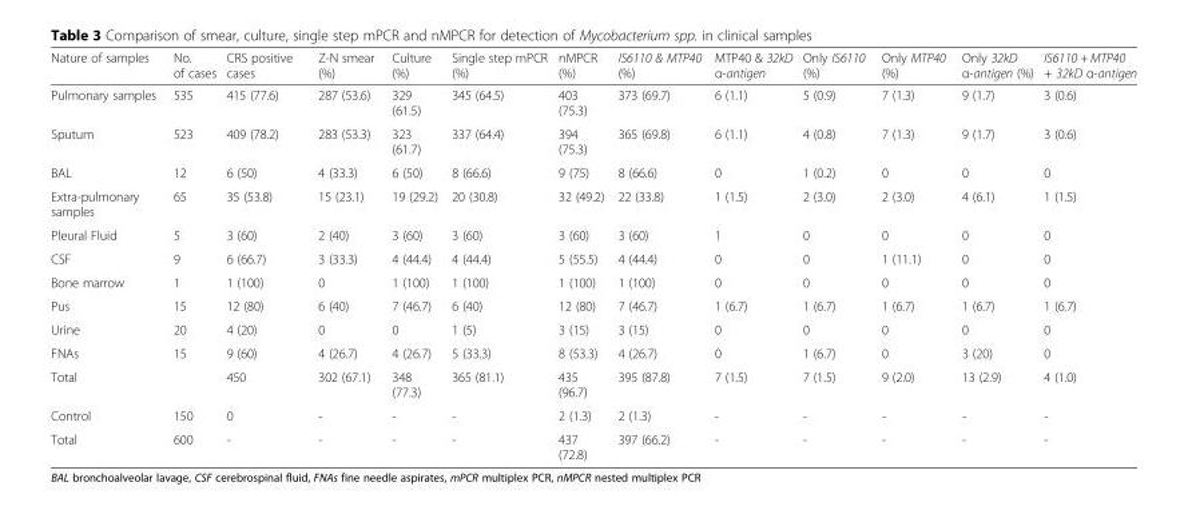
<table><thead><tr><td>Nature of samples</td><td>No. of cases</td><td>CRS positive cases</td><td>Z-N smear (%)</td><td>Culture (%)</td><td>Single step mPCR (%)</td><td>nMPCR (%)</td><td>IS6110 &amp; MTP40 (%)</td><td>MTP40 &amp; 32kD α-antigen</td><td>Only IS6110 (%)</td><td>Only MTP40 (%)</td><td>Only 32kD α-antigen (%)</td><td>IS6110 + MTP40 + 32kD α-antigen</td></tr></thead><tbody><tr><td>Pulmonary samples</td><td>535</td><td>415 (77.6)</td><td>287 (53.6)</td><td>329 (61.5)</td><td>345 (64.5)</td><td>403 (75.3)</td><td>373 (69.7)</td><td>6 (1.1)</td><td>5 (0.9)</td><td>7 (1.3)</td><td>9 (1.7)</td><td>3 (0.6)</td></tr><tr><td>Sputum</td><td>523</td><td>409 (78.2)</td><td>283 (53.3)</td><td>323 (61.7)</td><td>337 (64.4)</td><td>394 (75.3)</td><td>365 (69.8)</td><td>6 (1.1)</td><td>4 (0.8)</td><td>7 (1.3)</td><td>9 (1.7)</td><td>3 (0.6)</td></tr><tr><td>BAL</td><td>12</td><td>6 (50)</td><td>4 (33.3)</td><td>6 (50)</td><td>8 (66.6)</td><td>9 (75)</td><td>8 (66.6)</td><td>0</td><td>1 (0.2)</td><td>0</td><td>0</td><td>0</td></tr><tr><td>Extra-pulmonary samples</td><td>65</td><td>35 (53.8)</td><td>15 (23.1)</td><td>19 (29.2)</td><td>20 (30.8)</td><td>32 (49.2)</td><td>22 (33.8)</td><td>1 (1.5)</td><td>2 (3.0)</td><td>2 (3.0)</td><td>4 (6.1)</td><td>1 (1.5)</td></tr><tr><td>Pleural Fluid</td><td>5</td><td>3 (60)</td><td>2 (40)</td><td>3 (60)</td><td>3 (60)</td><td>3 (60)</td><td>3 (60)</td><td>1</td><td>0</td><td>0</td><td>0</td><td>0</td></tr><tr><td>CSF</td><td>9</td><td>6 (66.7)</td><td>3 (33.3)</td><td>4 (44.4)</td><td>4 (44.4)</td><td>5 (55.5)</td><td>4 (44.4)</td><td>0</td><td>0</td><td>1 (11.1)</td><td>0</td><td>0</td></tr><tr><td>Bone marrow</td><td>1</td><td>1 (100)</td><td>0</td><td>1 (100)</td><td>1 (100)</td><td>1 (100)</td><td>1 (100)</td><td>0</td><td>0</td><td>0</td><td>0</td><td>0</td></tr><tr><td>Pus</td><td>15</td><td>12 (80)</td><td>6 (40)</td><td>7 (46.7)</td><td>6 (40)</td><td>12 (80)</td><td>7 (46.7)</td><td>1 (6.7)</td><td>1 (6.7)</td><td>1 (6.7)</td><td>1 (6.7)</td><td>1 (6.7)</td></tr><tr><td>Urine</td><td>20</td><td>4 (20)</td><td>0</td><td>0</td><td>1 (5)</td><td>3 (15)</td><td>3 (15)</td><td>0</td><td>0</td><td>0</td><td>0</td><td>0</td></tr><tr><td>FNAs</td><td>15</td><td>9 (60)</td><td>4 (26.7)</td><td>4 (26.7)</td><td>5 (33.3)</td><td>8 (53.3)</td><td>4 (26.7)</td><td>0</td><td>1 (6.7)</td><td>0</td><td>3 (20)</td><td>0</td></tr><tr><td>Total</td><td></td><td>450</td><td>302 (67.1)</td><td>348 (77.3)</td><td>365 (81.1)</td><td>435 (96.7)</td><td>395 (87.8)</td><td>7 (1.5)</td><td>7 (1.5)</td><td>9 (2.0)</td><td>13 (2.9)</td><td>4 (1.0)</td></tr><tr><td>Control</td><td>150</td><td>0</td><td>-</td><td>-</td><td>-</td><td>2 (1.3)</td><td>2 (1.3)</td><td>-</td><td>-</td><td>-</td><td>-</td><td>-</td></tr><tr><td>Total</td><td>600</td><td>-</td><td>-</td><td>-</td><td>-</td><td>437 (72.8)</td><td>397 (66.2)</td><td>-</td><td>-</td><td>-</td><td>-</td><td>-</td></tr></tbody></table>